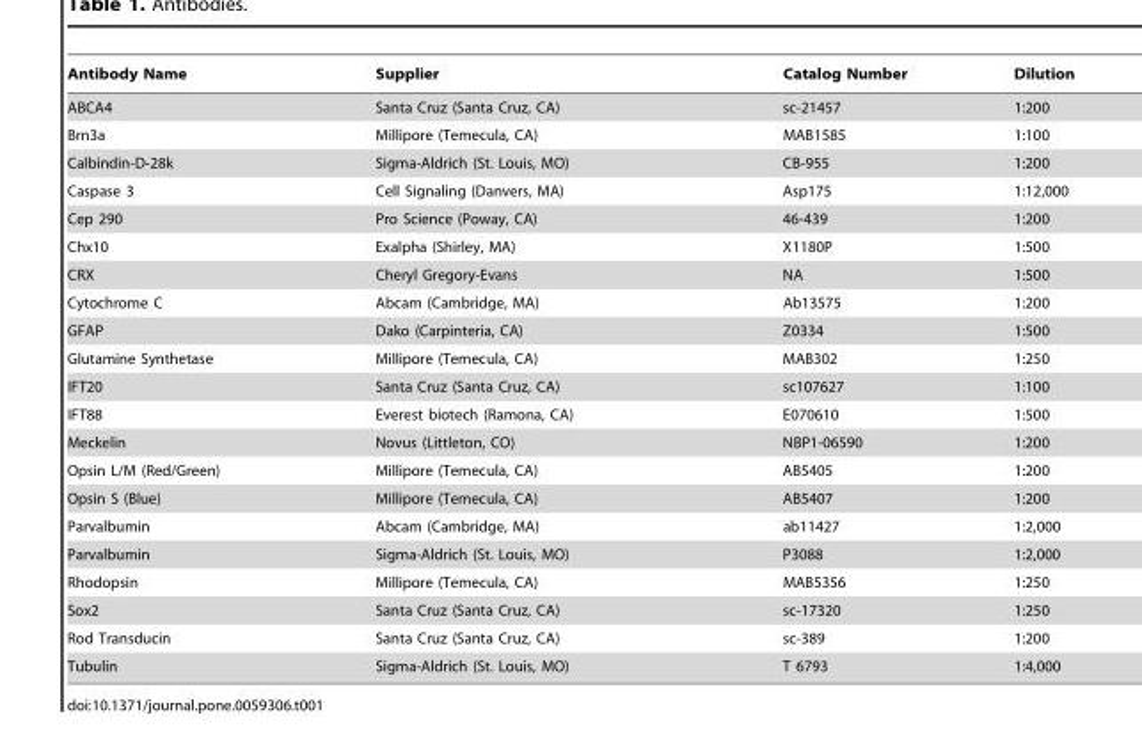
<table><thead><tr><td>Antibody Name</td><td>Supplier</td><td>Catalog Number</td><td>Dilution</td></tr></thead><tbody><tr><td>ABCA4</td><td>Santa Cruz (Santa Cruz, CA)</td><td>sc-21457</td><td>1:200</td></tr><tr><td>Brn3a</td><td>Millipore (Temecula, CA)</td><td>MAB1585</td><td>1:100</td></tr><tr><td>Calbindin-D-28k</td><td>Sigma-Aldrich (St. Louis, MO)</td><td>CB-955</td><td>1:200</td></tr><tr><td>Caspase 3</td><td>Cell Signaling (Danvers, MA)</td><td>Asp175</td><td>1:12,000</td></tr><tr><td>Cep 290</td><td>Pro Science (Poway, CA)</td><td>46-439</td><td>1:200</td></tr><tr><td>Chx10</td><td>Exalpha (Shirley, MA)</td><td>X1180P</td><td>1:500</td></tr><tr><td>CRX</td><td>Cheryl Gregory-Evans</td><td>NA</td><td>1:500</td></tr><tr><td>Cytochrome C</td><td>Abcam (Cambridge, MA)</td><td>Ab13575</td><td>1:200</td></tr><tr><td>GFAP</td><td>Dako (Carpinteria, CA)</td><td>Z0334</td><td>1:500</td></tr><tr><td>Glutamine Synthetase</td><td>Millipore (Temecula, CA)</td><td>MAB302</td><td>1:250</td></tr><tr><td>IFT20</td><td>Santa Cruz (Santa Cruz, CA)</td><td>sc107627</td><td>1:100</td></tr><tr><td>IFT88</td><td>Everest biotech (Ramona, CA)</td><td>E070610</td><td>1:500</td></tr><tr><td>Meckelin</td><td>Novus (Littleton, CO)</td><td>NBP1-06590</td><td>1:200</td></tr><tr><td>Opsin L/M (Red/Green)</td><td>Millipore (Temecula, CA)</td><td>AB5405</td><td>1:200</td></tr><tr><td>Opsin S (Blue)</td><td>Millipore (Temecula, CA)</td><td>AB5407</td><td>1:200</td></tr><tr><td>Parvalbumin</td><td>Abcam (Cambridge, MA)</td><td>ab11427</td><td>1:2,000</td></tr><tr><td>Parvalbumin</td><td>Sigma-Aldrich (St. Louis, MO)</td><td>P3088</td><td>1:2,000</td></tr><tr><td>Rhodopsin</td><td>Millipore (Temecula, CA)</td><td>MAB5356</td><td>1:250</td></tr><tr><td>Sox2</td><td>Santa Cruz (Santa Cruz, CA)</td><td>sc-17320</td><td>1:250</td></tr><tr><td>Rod Transducin</td><td>Santa Cruz (Santa Cruz, CA)</td><td>sc-389</td><td>1:200</td></tr><tr><td>Tubulin</td><td>Sigma-Aldrich (St. Louis, MO)</td><td>T 6793</td><td>1:4,000</td></tr></tbody></table>